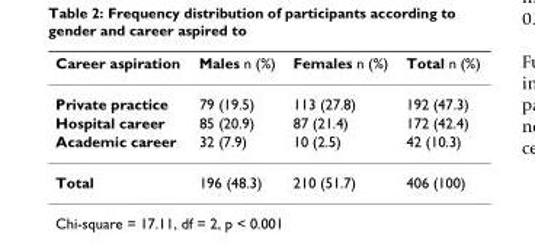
<table><thead><tr><td>Career aspiration</td><td>Males n (%)</td><td>Females n (%)</td><td>Total n (%)</td></tr></thead><tbody><tr><td>Private practice</td><td>79 (19.5)</td><td>113 (27.8)</td><td>192 (47.3)</td></tr><tr><td>Hospital career</td><td>85 (20.9)</td><td>87 (21.4)</td><td>172 (42.4)</td></tr><tr><td>Academic career</td><td>32 (7.9)</td><td>10 (2.5)</td><td>42 (10.3)</td></tr><tr><td>Total</td><td>196 (48.3)</td><td>210 (51.7)</td><td>406 (100)</td></tr></tbody></table>